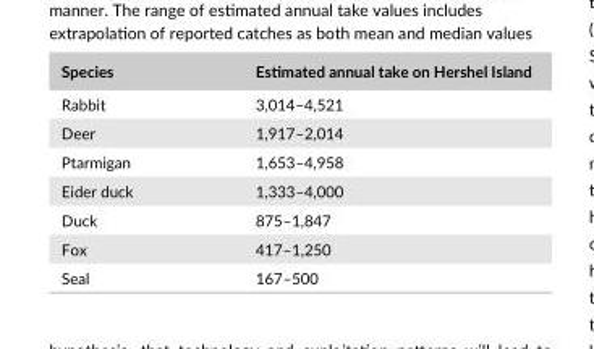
<table><thead><tr><td>Species</td><td>Estimated annual take on Hershel Island</td></tr></thead><tbody><tr><td>Rabbit</td><td>3,014–4,521</td></tr><tr><td>Deer</td><td>1,917–2,014</td></tr><tr><td>Ptarmigan</td><td>1,653–4,958</td></tr><tr><td>Eider duck</td><td>1,333–4,000</td></tr><tr><td>Duck</td><td>875–1,847</td></tr><tr><td>Fox</td><td>417–1,250</td></tr><tr><td>Seal</td><td>167–500</td></tr></tbody></table>